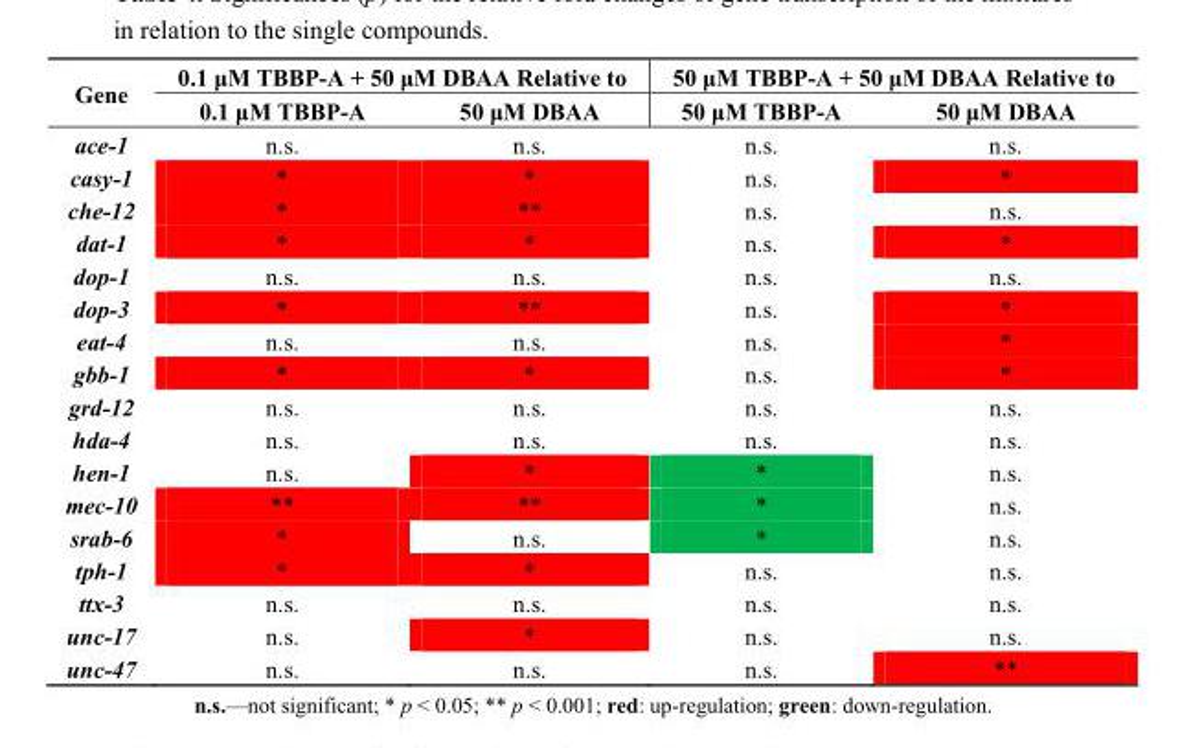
<table><thead><tr><td rowspan="2">Gene</td><td colspan="2">0.1 μM TBBP-A + 50 μM DBAA Relative to</td><td colspan="2">50 μM TBBP-A + 50 μM DBAA Relative to</td></tr><tr><td>0.1 μM TBBP-A</td><td>50 μM DBAA</td><td>50 μM TBBP-A</td><td>50 μM DBAA</td></tr></thead><tbody><tr><td>ace-1</td><td>n.s.</td><td>n.s.</td><td>n.s.</td><td>n.s.</td></tr><tr><td>casy-1</td><td>*</td><td>*</td><td>n.s.</td><td>*</td></tr><tr><td>che-12</td><td>*</td><td>**</td><td>n.s.</td><td>n.s.</td></tr><tr><td>dat-1</td><td>*</td><td>*</td><td>n.s.</td><td>*</td></tr><tr><td>dop-1</td><td>n.s.</td><td>n.s.</td><td>n.s.</td><td>n.s.</td></tr><tr><td>dop-3</td><td>*</td><td>**</td><td>n.s.</td><td>*</td></tr><tr><td>eat-4</td><td>n.s.</td><td>n.s.</td><td>n.s.</td><td>*</td></tr><tr><td>gbb-1</td><td>*</td><td>*</td><td>n.s.</td><td>*</td></tr><tr><td>grd-12</td><td>n.s.</td><td>n.s.</td><td>n.s.</td><td>n.s.</td></tr><tr><td>hda-4</td><td>n.s.</td><td>n.s.</td><td>n.s.</td><td>n.s.</td></tr><tr><td>hen-1</td><td>n.s.</td><td>*</td><td>*</td><td>n.s.</td></tr><tr><td>mec-10</td><td>**</td><td>**</td><td>*</td><td>n.s.</td></tr><tr><td>srab-6</td><td>*</td><td>n.s.</td><td>*</td><td>n.s.</td></tr><tr><td>tph-1</td><td>*</td><td>*</td><td>n.s.</td><td>n.s.</td></tr><tr><td>ttx-3</td><td>n.s.</td><td>n.s.</td><td>n.s.</td><td>n.s.</td></tr><tr><td>unc-17</td><td>n.s.</td><td>*</td><td>n.s.</td><td>n.s.</td></tr><tr><td>unc-47</td><td>n.s.</td><td>n.s.</td><td>n.s.</td><td>**</td></tr></tbody></table>